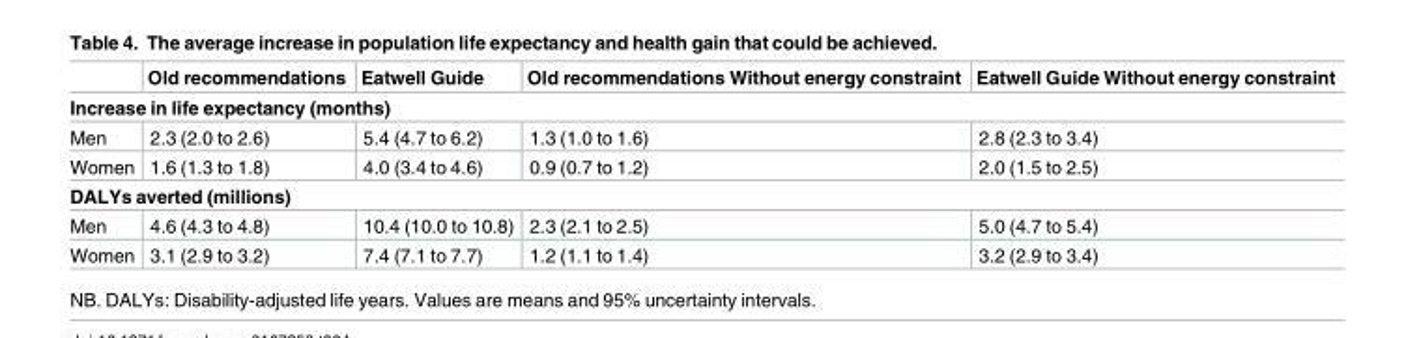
<table><thead><tr><td></td><td>Old recommendations</td><td>Eatwell Guide</td><td>Old recommendations Without energy constraint</td><td>Eatwell Guide Without energy constraint</td></tr></thead><tbody><tr><td colspan="5">Increase in life expectancy (months)</td></tr><tr><td>Men</td><td>2.3 (2.0 to 2.6)</td><td>5.4 (4.7 to 6.2)</td><td>1.3 (1.0 to 1.6)</td><td>2.8 (2.3 to 3.4)</td></tr><tr><td>Women</td><td>1.6 (1.3 to 1.8)</td><td>4.0 (3.4 to 4.6)</td><td>0.9 (0.7 to 1.2)</td><td>2.0 (1.5 to 2.5)</td></tr><tr><td colspan="5">DALYs averted (millions)</td></tr><tr><td>Men</td><td>4.6 (4.3 to 4.8)</td><td>10.4 (10.0 to 10.8)</td><td>2.3 (2.1 to 2.5)</td><td>5.0 (4.7 to 5.4)</td></tr><tr><td>Women</td><td>3.1 (2.9 to 3.2)</td><td>7.4 (7.1 to 7.7)</td><td>1.2 (1.1 to 1.4)</td><td>3.2 (2.9 to 3.4)</td></tr></tbody></table>